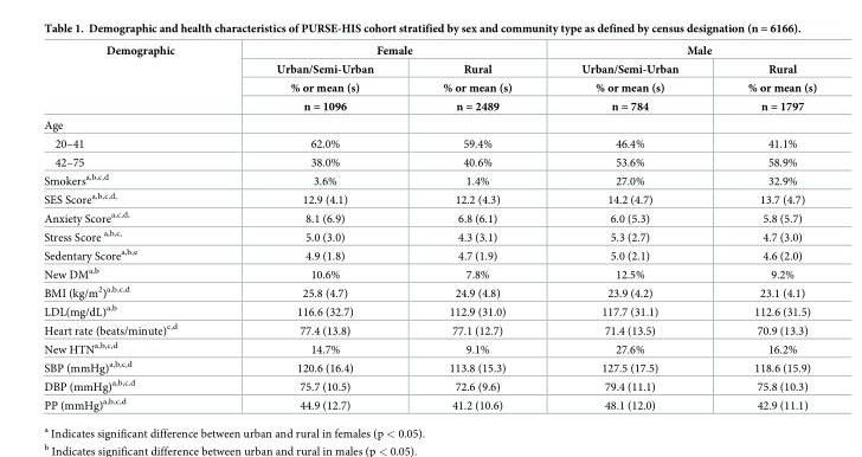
<table><thead><tr><td rowspan="4">Demographic</td><td colspan="2">Female</td><td colspan="2">Male</td></tr><tr><td rowspan="3">Urban/Semi-Urban % or mean (s) n = 1096</td><td rowspan="3">Rural % or mean (s) n = 2489</td><td rowspan="3">Urban/Semi-Urban % or mean (s) n = 784</td><td rowspan="3">Rural % or mean (s) n = 1797</td></tr><tr></tr><tr></tr></thead><tbody><tr><td colspan="5">Age</td></tr><tr><td>20–41</td><td>62.0%</td><td>59.4%</td><td>46.4%</td><td>41.1%</td></tr><tr><td>42–75</td><td>38.0%</td><td>40.6%</td><td>53.6%</td><td>58.9%</td></tr><tr><td>Smokers<sup>a,b,c,d</sup></td><td>3.6%</td><td>1.4%</td><td>27.0%</td><td>32.9%</td></tr><tr><td>SES Score<sup>a,b,c,d,</sup></td><td>12.9 (4.1)</td><td>12.2 (4.3)</td><td>14.2 (4.7)</td><td>13.7 (4.7)</td></tr><tr><td>Anxiety Score<sup>a,c,d,</sup></td><td>8.1 (6.9)</td><td>6.8 (6.1)</td><td>6.0 (5.3)</td><td>5.8 (5.7)</td></tr><tr><td>Stress Score <sup>a,b,c,</sup></td><td>5.0 (3.0)</td><td>4.3 (3.1)</td><td>5.3 (2.7)</td><td>4.7 (3.0)</td></tr><tr><td>Sedentary Score<sup>a,b,e</sup></td><td>4.9 (1.8)</td><td>4.7 (1.9)</td><td>5.0 (2.1)</td><td>4.6 (2.0)</td></tr><tr><td>New DM<sup>a,b</sup></td><td>10.6%</td><td>7.8%</td><td>12.5%</td><td>9.2%</td></tr><tr><td>BMI (kg/m<sup>2</sup>)<sup>a,b,c,d</sup></td><td>25.8 (4.7)</td><td>24.9 (4.8)</td><td>23.9 (4.2)</td><td>23.1 (4.1)</td></tr><tr><td>LDL(mg/dL)<sup>a,b</sup></td><td>116.6 (32.7)</td><td>112.9 (31.0)</td><td>117.7 (31.1)</td><td>112.6 (31.5)</td></tr><tr><td>Heart rate (beats/minute)<sup>c,d</sup></td><td>77.4 (13.8)</td><td>77.1 (12.7)</td><td>71.4 (13.5)</td><td>70.9 (13.3)</td></tr><tr><td>New HTN<sup>a,b,c,d</sup></td><td>14.7%</td><td>9.1%</td><td>27.6%</td><td>16.2%</td></tr><tr><td>SBP (mmHg)<sup>a,b,c,d</sup></td><td>120.6 (16.4)</td><td>113.8 (15.3)</td><td>127.5 (17.5)</td><td>118.6 (15.9)</td></tr><tr><td>DBP (mmHg)<sup>a,b,c,d</sup></td><td>75.7 (10.5)</td><td>72.6 (9.6)</td><td>79.4 (11.1)</td><td>75.8 (10.3)</td></tr><tr><td>PP (mmHg)<sup>a,b,c,d</sup></td><td>44.9 (12.7)</td><td>41.2 (10.6)</td><td>48.1 (12.0)</td><td>42.9 (11.1)</td></tr></tbody></table>